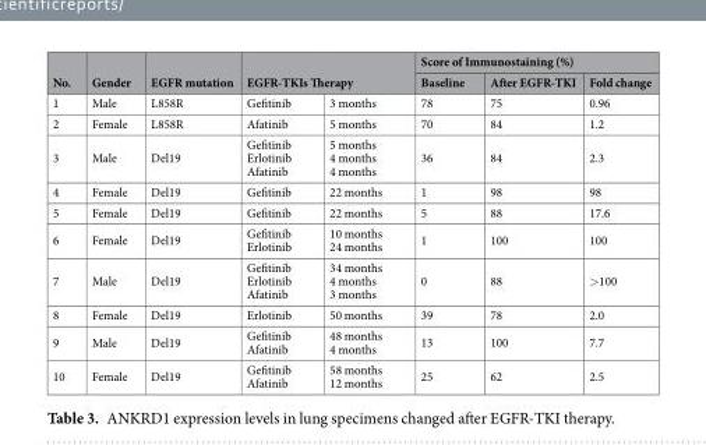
<table><thead><tr><td rowspan="3">No. 1</td><td rowspan="3">Gender Male</td><td rowspan="3">EGFR mutation L858R</td><td rowspan="2" colspan="2">EGFR-TKIs Therapy</td><td colspan="3">Score of Immunostaining (%)</td></tr><tr><td rowspan="2">Baseline 78</td><td rowspan="2">After EGFR-TKI 75</td><td rowspan="2">Fold change 0.96</td></tr><tr><td>Gefitinib</td><td>3 months</td></tr></thead><tbody><tr><td>2</td><td>Female</td><td>L858R</td><td>Afatinib</td><td>5 months</td><td>70</td><td>84</td><td>1.2</td></tr><tr><td>3</td><td>Male</td><td>Del19</td><td>Gefitinib Erlotinib Afatinib</td><td>5 months 4 months 4 months</td><td>36</td><td>84</td><td>2.3</td></tr><tr><td>4</td><td>Female</td><td>Del19</td><td>Gefitinib</td><td>22 months</td><td>1</td><td>98</td><td>98</td></tr><tr><td>5</td><td>Female</td><td>Del19</td><td>Gefitinib</td><td>22 months</td><td>5</td><td>88</td><td>17.6</td></tr><tr><td>6</td><td>Female</td><td>Del19</td><td>Gefitinib Erlotinib</td><td>10 months 24 months</td><td>1</td><td>100</td><td>100</td></tr><tr><td>7</td><td>Male</td><td>Del19</td><td>Gefitinib Erlotinib Afatinib</td><td>34 months 4 months 3 months</td><td>0</td><td>88</td><td>&gt;100</td></tr><tr><td>8</td><td>Female</td><td>Del19</td><td>Erlotinib</td><td>50 months</td><td>39</td><td>78</td><td>2.0</td></tr><tr><td>9</td><td>Male</td><td>Del19</td><td>Gefitinib Afatinib</td><td>48 months 4 months</td><td>13</td><td>100</td><td>7.7</td></tr><tr><td>10</td><td>Female</td><td>Del19</td><td>Gefitinib Afatinib</td><td>58 months 12 months</td><td>25</td><td>62</td><td>2.5</td></tr></tbody></table>